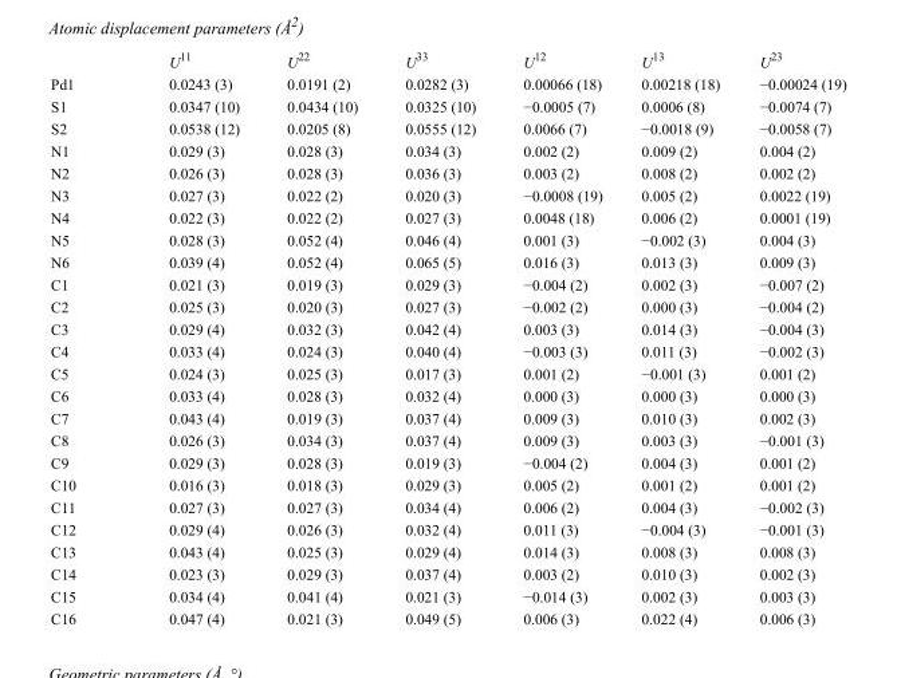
<table><thead><tr><td></td><td>U<sup>11</sup></td><td>U<sup>22</sup></td><td>U<sup>33</sup></td><td>U<sup>12</sup></td><td>U<sup>13</sup></td><td>U<sup>23</sup></td></tr></thead><tbody><tr><td>Pd1</td><td>0.0243 (3)</td><td>0.0191 (2)</td><td>0.0282 (3)</td><td>0.00066 (18)</td><td>0.00218 (18)</td><td>−0.00024 (19)</td></tr><tr><td>S1</td><td>0.0347 (10)</td><td>0.0434 (10)</td><td>0.0325 (10)</td><td>−0.0005 (7)</td><td>0.0006 (8)</td><td>−0.0074 (7)</td></tr><tr><td>S2</td><td>0.0538 (12)</td><td>0.0205 (8)</td><td>0.0555 (12)</td><td>0.0066 (7)</td><td>−0.0018 (9)</td><td>−0.0058 (7)</td></tr><tr><td>N1</td><td>0.029 (3)</td><td>0.028 (3)</td><td>0.034 (3)</td><td>0.002 (2)</td><td>0.009 (2)</td><td>0.004 (2)</td></tr><tr><td>N2</td><td>0.026 (3)</td><td>0.028 (3)</td><td>0.036 (3)</td><td>0.003 (2)</td><td>0.008 (2)</td><td>0.002 (2)</td></tr><tr><td>N3</td><td>0.027 (3)</td><td>0.022 (2)</td><td>0.020 (3)</td><td>−0.0008 (19)</td><td>0.005 (2)</td><td>0.0022 (19)</td></tr><tr><td>N4</td><td>0.022 (3)</td><td>0.022 (2)</td><td>0.027 (3)</td><td>0.0048 (18)</td><td>0.006 (2)</td><td>0.0001 (19)</td></tr><tr><td>N5</td><td>0.028 (3)</td><td>0.052 (4)</td><td>0.046 (4)</td><td>0.001 (3)</td><td>−0.002 (3)</td><td>0.004 (3)</td></tr><tr><td>N6</td><td>0.039 (4)</td><td>0.052 (4)</td><td>0.065 (5)</td><td>0.016 (3)</td><td>0.013 (3)</td><td>0.009 (3)</td></tr><tr><td>C1</td><td>0.021 (3)</td><td>0.019 (3)</td><td>0.029 (3)</td><td>−0.004 (2)</td><td>0.002 (3)</td><td>−0.007 (2)</td></tr><tr><td>C2</td><td>0.025 (3)</td><td>0.020 (3)</td><td>0.027 (3)</td><td>−0.002 (2)</td><td>0.000 (3)</td><td>−0.004 (2)</td></tr><tr><td>C3</td><td>0.029 (4)</td><td>0.032 (3)</td><td>0.042 (4)</td><td>0.003 (3)</td><td>0.014 (3)</td><td>−0.004 (3)</td></tr><tr><td>C4</td><td>0.033 (4)</td><td>0.024 (3)</td><td>0.040 (4)</td><td>−0.003 (3)</td><td>0.011 (3)</td><td>−0.002 (3)</td></tr><tr><td>C5</td><td>0.024 (3)</td><td>0.025 (3)</td><td>0.017 (3)</td><td>0.001 (2)</td><td>−0.001 (3)</td><td>0.001 (2)</td></tr><tr><td>C6</td><td>0.033 (4)</td><td>0.028 (3)</td><td>0.032 (4)</td><td>0.000 (3)</td><td>0.000 (3)</td><td>0.000 (3)</td></tr><tr><td>C7</td><td>0.043 (4)</td><td>0.019 (3)</td><td>0.037 (4)</td><td>0.009 (3)</td><td>0.010 (3)</td><td>0.002 (3)</td></tr><tr><td>C8</td><td>0.026 (3)</td><td>0.034 (3)</td><td>0.037 (4)</td><td>0.009 (3)</td><td>0.003 (3)</td><td>−0.001 (3)</td></tr><tr><td>C9</td><td>0.029 (3)</td><td>0.028 (3)</td><td>0.019 (3)</td><td>−0.004 (2)</td><td>0.004 (3)</td><td>0.001 (2)</td></tr><tr><td>C10</td><td>0.016 (3)</td><td>0.018 (3)</td><td>0.029 (3)</td><td>0.005 (2)</td><td>0.001 (2)</td><td>0.001 (2)</td></tr><tr><td>C11</td><td>0.027 (3)</td><td>0.027 (3)</td><td>0.034 (4)</td><td>0.006 (2)</td><td>0.004 (3)</td><td>−0.002 (3)</td></tr><tr><td>C12</td><td>0.029 (4)</td><td>0.026 (3)</td><td>0.032 (4)</td><td>0.011 (3)</td><td>−0.004 (3)</td><td>−0.001 (3)</td></tr><tr><td>C13</td><td>0.043 (4)</td><td>0.025 (3)</td><td>0.029 (4)</td><td>0.014 (3)</td><td>0.008 (3)</td><td>0.008 (3)</td></tr><tr><td>C14</td><td>0.023 (3)</td><td>0.029 (3)</td><td>0.037 (4)</td><td>0.003 (2)</td><td>0.010 (3)</td><td>0.002 (3)</td></tr><tr><td>C15</td><td>0.034 (4)</td><td>0.041 (4)</td><td>0.021 (3)</td><td>−0.014 (3)</td><td>0.002 (3)</td><td>0.003 (3)</td></tr><tr><td>C16</td><td>0.047 (4)</td><td>0.021 (3)</td><td>0.049 (5)</td><td>0.006 (3)</td><td>0.022 (4)</td><td>0.006 (3)</td></tr></tbody></table>